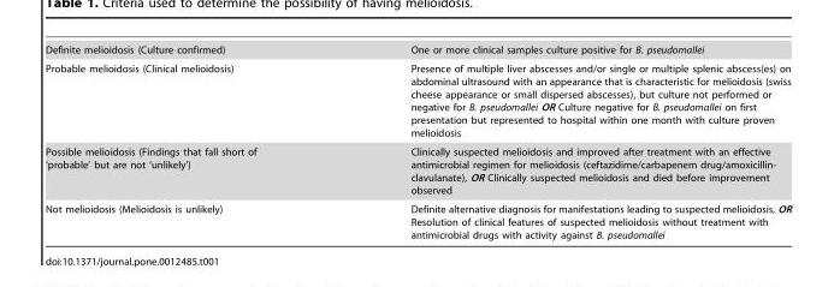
<table><tbody><tr><td>Definite melioidosis (Culture confirmed)</td><td>One or more clinical samples culture positive for B. pseudomallei</td></tr><tr><td>Probable melioidosis (Clinical melioidosis)</td><td>Presence of multiple liver abscesses and/or single or multiple splenic abscess(es) on abdominal ultrasound with an appearance that is characteristic for melioidosis (swiss cheese appearance or small dispersed abscesses), but culture not performed or negative for B. pseudomallei OR Culture negative for B. pseudomallei on first presentation but represented to hospital within one month with culture proven melioidosis</td></tr><tr><td>Possible melioidosis (Findings that fall short of ‘probable’ but are not ‘unlikely’)</td><td>Clinically suspected melioidosis and improved after treatment with an effective antimicrobial regimen for melioidosis (ceftazidime/carbapenem drug/amoxicillin- clavulanate), OR Clinically suspected melioidosis and died before improvement observed</td></tr><tr><td>Not melioidosis (Melioidosis is unlikely)</td><td>Definite alternative diagnosis for manifestations leading to suspected melioidosis, OR Resolution of clinical features of suspected melioidosis without treatment with antimicrobial drugs with activity against B. pseudomallei</td></tr></tbody></table>